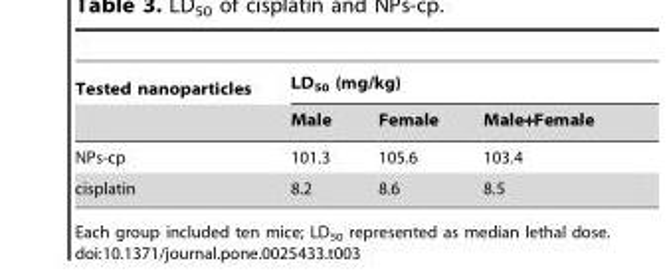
<table><thead><tr><td rowspan="2">Tested nanoparticles</td><td colspan="3">LD<sub>50</sub> (mg/kg)</td></tr><tr><td>Male</td><td>Female</td><td>Male+Female</td></tr></thead><tbody><tr><td>NPs-cp</td><td>101.3</td><td>105.6</td><td>103.4</td></tr><tr><td>cisplatin</td><td>8.2</td><td>8.6</td><td>8.5</td></tr></tbody></table>